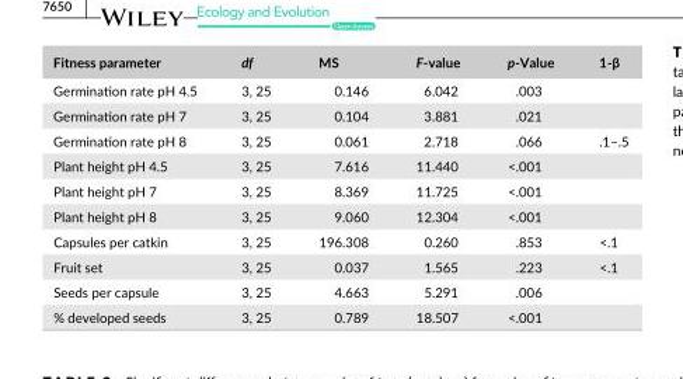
<table><thead><tr><td>Fitness parameter</td><td>df</td><td>MS</td><td>F- value</td><td>p- Value</td><td>1- β</td></tr></thead><tbody><tr><td>Germination rate pH 4.5</td><td>3, 25</td><td>0.146</td><td>6.042</td><td>.003</td><td></td></tr><tr><td>Germination rate pH 7</td><td>3, 25</td><td>0.104</td><td>3.881</td><td>.021</td><td></td></tr><tr><td>Germination rate pH 8</td><td>3, 25</td><td>0.061</td><td>2.718</td><td>.066</td><td>.1–.5</td></tr><tr><td>Plant height pH 4.5</td><td>3, 25</td><td>7.616</td><td>11.440</td><td>&lt;.001</td><td></td></tr><tr><td>Plant height pH 7</td><td>3, 25</td><td>8.369</td><td>11.725</td><td>&lt;.001</td><td></td></tr><tr><td>Plant height pH 8</td><td>3, 25</td><td>9.060</td><td>12.304</td><td>&lt;.001</td><td></td></tr><tr><td>Capsules per catkin</td><td>3, 25</td><td>196.308</td><td>0.260</td><td>.853</td><td>&lt;.1</td></tr><tr><td>Fruit set</td><td>3, 25</td><td>0.037</td><td>1.565</td><td>.223</td><td>&lt;.1</td></tr><tr><td>Seeds per capsule</td><td>3, 25</td><td>4.663</td><td>5.291</td><td>.006</td><td></td></tr><tr><td>% developed seeds</td><td>3, 25</td><td>0.789</td><td>18.507</td><td>&lt;.001</td><td></td></tr></tbody></table>